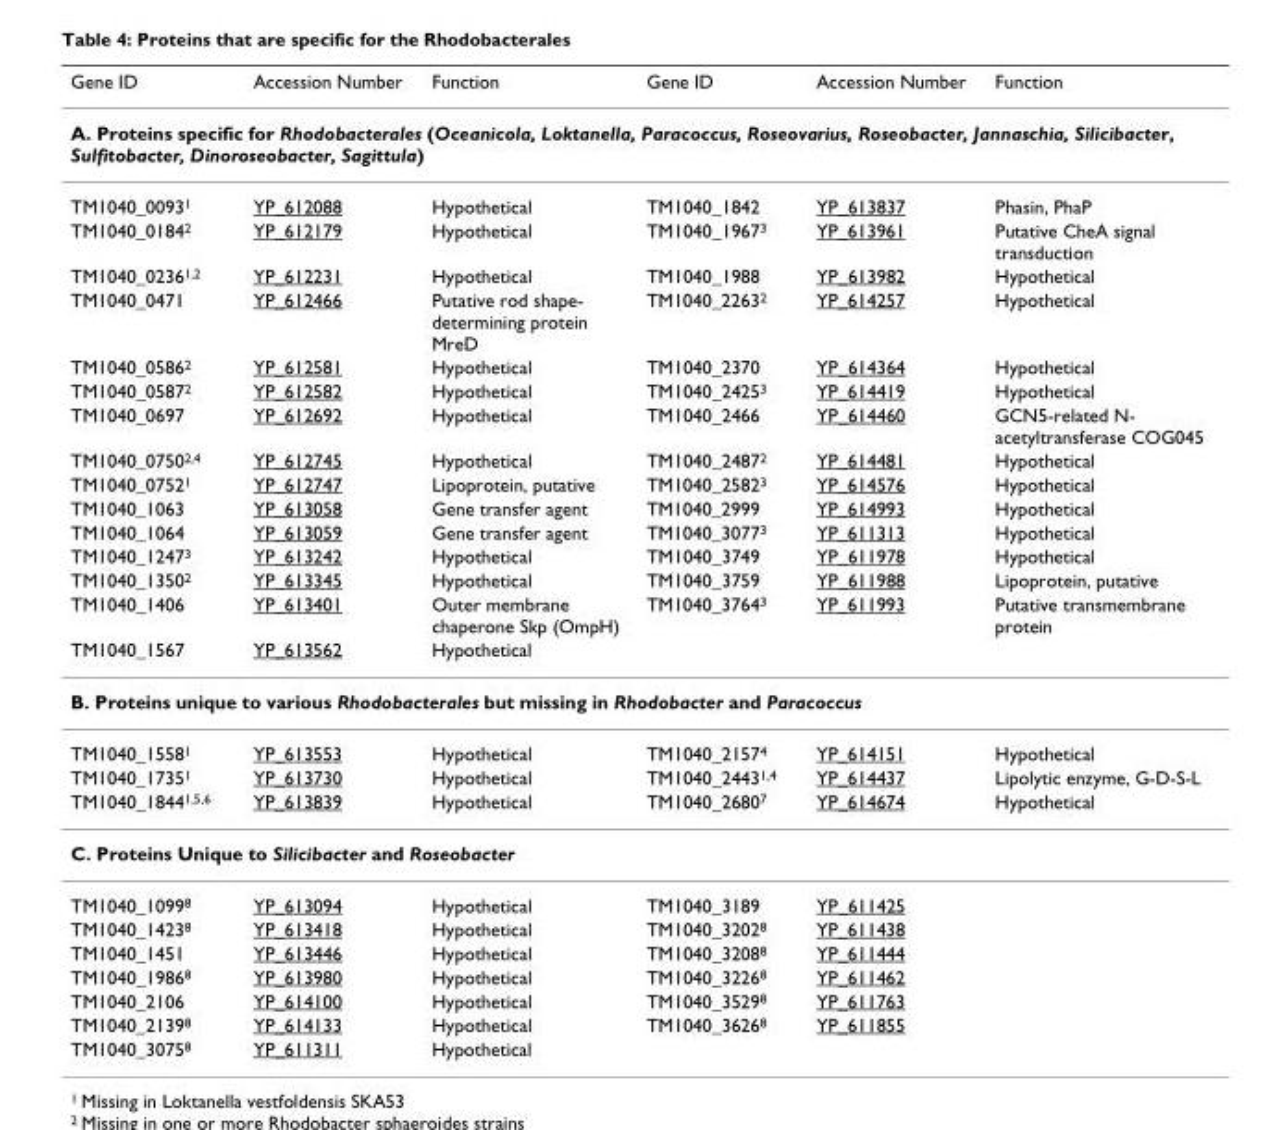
<table><thead><tr><td>Gene ID</td><td>Accession Number</td><td>Function</td><td>Gene ID</td><td>Accession Number</td><td>Function</td></tr></thead><tbody><tr><td colspan="6">A. Proteins specific for Rhodobacterales (Oceanicola, Loktanella, Paracoccus, Roseovarius, Roseobacter, Jannaschia, Silicibacter, Sulfitobacter, Dinoroseobacter, Sagittula)</td></tr><tr><td>TM1040_0093<sup>1</sup></td><td>YP_612088</td><td>Hypothetical</td><td>TM1040_1842</td><td>YP_613837</td><td>Phasin, PhaP</td></tr><tr><td>TM1040_0184<sup>2</sup></td><td>YP_612179</td><td>Hypothetical</td><td>TM1040_1967<sup>3</sup></td><td>YP_613961</td><td>Putative CheA signal transduction</td></tr><tr><td>TM1040_0236<sup>1,2</sup></td><td>YP_612231</td><td>Hypothetical</td><td>TM1040_1988</td><td>YP_613982</td><td>Hypothetical</td></tr><tr><td>TM1040_0471</td><td>YP_612466</td><td>Putative rod shape- determining protein MreD</td><td>TM1040_2263<sup>2</sup></td><td>YP_614257</td><td>Hypothetical</td></tr><tr><td>TM1040_0586<sup>2</sup></td><td>YP_612581</td><td>Hypothetical</td><td>TM1040_2370</td><td>YP_614364</td><td>Hypothetical</td></tr><tr><td>TM1040_0587<sup>2</sup></td><td>YP_612582</td><td>Hypothetical</td><td>TM1040_2425<sup>3</sup></td><td>YP_614419</td><td>Hypothetical</td></tr><tr><td>TM1040_0697</td><td>YP_612692</td><td>Hypothetical</td><td>TM1040_2466</td><td>YP_614460</td><td>GCN5-related N- acetyltransferase COG045</td></tr><tr><td>TM1040_0750<sup>2,4</sup></td><td>YP_612745</td><td>Hypothetical</td><td>TM1040_2487<sup>2</sup></td><td>YP_614481</td><td>Hypothetical</td></tr><tr><td>TM1040_0752<sup>1</sup></td><td>YP_612747</td><td>Lipoprotein, putative</td><td>TM1040_2582<sup>3</sup></td><td>YP_614576</td><td>Hypothetical</td></tr><tr><td>TM1040_1063</td><td>YP_613058</td><td>Gene transfer agent</td><td>TM1040_2999</td><td>YP_614993</td><td>Hypothetical</td></tr><tr><td>TM1040_1064</td><td>YP_613059</td><td>Gene transfer agent</td><td>TM1040_3077<sup>3</sup></td><td>YP_611313</td><td>Hypothetical</td></tr><tr><td>TM1040_1247<sup>3</sup></td><td>YP_613242</td><td>Hypothetical</td><td>TM1040_3749</td><td>YP_611978</td><td>Hypothetical</td></tr><tr><td>TM1040_1350<sup>2</sup></td><td>YP_613345</td><td>Hypothetical</td><td>TM1040_3759</td><td>YP_611988</td><td>Lipoprotein, putative</td></tr><tr><td>TM1040_1406</td><td>YP_613401</td><td>Outer membrane chaperone Skp (OmpH)</td><td>TM1040_3764<sup>3</sup></td><td>YP_611993</td><td>Putative transmembrane protein</td></tr><tr><td>TM1040_1567</td><td>YP_613562</td><td>Hypothetical</td><td></td><td></td><td></td></tr><tr><td colspan="6">B. Proteins unique to various Rhodobacterales but missing in Rhodobacter and Paracoccus</td></tr><tr><td>TM1040_1558<sup>1</sup></td><td>YP_613553</td><td>Hypothetical</td><td>TM1040_2157<sup>4</sup></td><td>YP_614151</td><td>Hypothetical</td></tr><tr><td>TM1040_1735<sup>1</sup></td><td>YP_613730</td><td>Hypothetical</td><td>TM1040_2443<sup>1,4</sup></td><td>YP_614437</td><td>Lipolytic enzyme, G-D-S-L</td></tr><tr><td>TM1040_1844<sup>1,5,6</sup></td><td>YP_613839</td><td>Hypothetical</td><td>TM1040_2680<sup>7</sup></td><td>YP_614674</td><td>Hypothetical</td></tr><tr><td colspan="6">C. Proteins Unique to Silicibacter and Roseobacter</td></tr><tr><td>TM1040_1099<sup>8</sup></td><td>YP_613094</td><td>Hypothetical</td><td>TM1040_3189</td><td>YP_611425</td><td></td></tr><tr><td>TM1040_1423<sup>8</sup></td><td>YP_613418</td><td>Hypothetical</td><td>TM1040_3202<sup>8</sup></td><td>YP_611438</td><td></td></tr><tr><td>TM1040_1451</td><td>YP_613446</td><td>Hypothetical</td><td>TM1040_3208<sup>8</sup></td><td>YP_611444</td><td></td></tr><tr><td>TM1040_1986<sup>8</sup></td><td>YP_613980</td><td>Hypothetical</td><td>TM1040_3226<sup>8</sup></td><td>YP_611462</td><td></td></tr><tr><td>TM1040_2106</td><td>YP_614100</td><td>Hypothetical</td><td>TM1040_3529<sup>8</sup></td><td>YP_611763</td><td></td></tr><tr><td>TM1040_2139<sup>8</sup></td><td>YP_614133</td><td>Hypothetical</td><td>TM1040_3626<sup>8</sup></td><td>YP_611855</td><td></td></tr><tr><td>TM1040_3075<sup>8</sup></td><td>YP_611311</td><td>Hypothetical</td><td></td><td></td><td></td></tr></tbody></table>